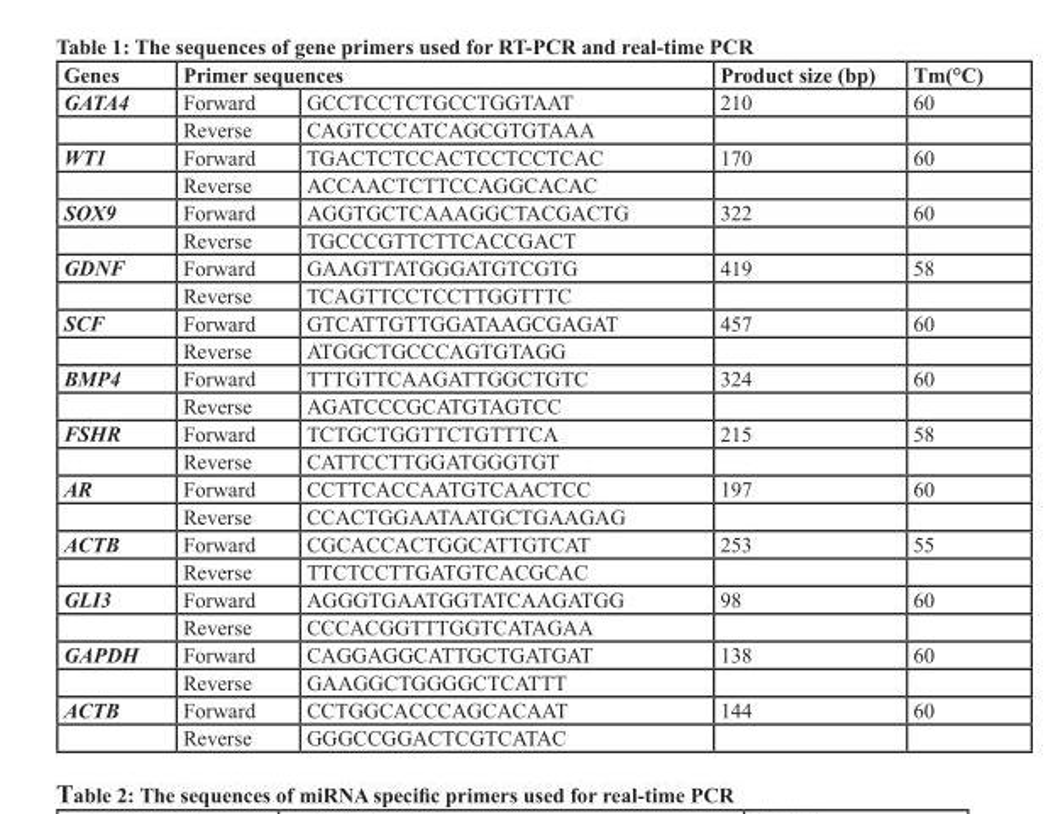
<table><thead><tr><td rowspan="2">Genes GATA4</td><td colspan="2">Primer sequences</td><td rowspan="2">Product size (bp) 210</td><td rowspan="2">Tm(°C) 60</td></tr><tr><td>Forward</td><td>GCCTCCTCTGCCTGGTAAT</td></tr></thead><tbody><tr><td></td><td>Reverse</td><td>CAGTCCCATCAGCGTGTAAA</td><td></td><td></td></tr><tr><td rowspan="2">WT1</td><td>Forward</td><td>TGACTCTCCACTCCTCCTCAC</td><td>170</td><td>60</td></tr><tr><td>Reverse</td><td>ACCAACTCTTCCAGGCACAC</td><td></td><td></td></tr><tr><td rowspan="2">SOX9</td><td>Forward</td><td>AGGTGCTCAAAGGCTACGACTG</td><td>322</td><td>60</td></tr><tr><td>Reverse</td><td>TGCCCGTTCTTCACCGACT</td><td></td><td></td></tr><tr><td rowspan="2">GDNF</td><td>Forward</td><td>GAAGTTATGGGATGTCGTG</td><td>419</td><td>58</td></tr><tr><td>Reverse</td><td>TCAGTTCCTCCTTGGTTTC</td><td></td><td></td></tr><tr><td rowspan="2">SCF</td><td>Forward</td><td>GTCATTGTTGGATAAGCGAGAT</td><td>457</td><td>60</td></tr><tr><td>Reverse</td><td>ATGGCTGCCCAGTGTAGG</td><td></td><td></td></tr><tr><td rowspan="2">BMP4</td><td>Forward</td><td>TTTGTTCAAGATTGGCTGTC</td><td>324</td><td>60</td></tr><tr><td>Reverse</td><td>AGATCCCGCATGTAGTCC</td><td></td><td></td></tr><tr><td rowspan="2">FSHR</td><td>Forward</td><td>TCTGCTGGTTCTGTTTCA</td><td>215</td><td>58</td></tr><tr><td>Reverse</td><td>CATTCCTTGGATGGGTGT</td><td></td><td></td></tr><tr><td rowspan="2">AR</td><td>Forward</td><td>CCTTCACCAATGTCAACTCC</td><td>197</td><td>60</td></tr><tr><td>Reverse</td><td>CCACTGGAATAATGCTGAAGAG</td><td></td><td></td></tr><tr><td rowspan="2">ACTB</td><td>Forward</td><td>CGCACCACTGGCATTGTCAT</td><td>253</td><td>55</td></tr><tr><td>Reverse</td><td>TTCTCCTTGATGTCACGCAC</td><td></td><td></td></tr><tr><td rowspan="2">GLI3</td><td>Forward</td><td>AGGGTGAATGGTATCAAGATGG</td><td>98</td><td>60</td></tr><tr><td>Reverse</td><td>CCCACGGTTTGGTCATAGAA</td><td></td><td></td></tr><tr><td rowspan="2">GAPDH</td><td>Forward</td><td>CAGGAGGCATTGCTGATGAT</td><td>138</td><td>60</td></tr><tr><td>Reverse</td><td>GAAGGCTGGGGCTCATTT</td><td></td><td></td></tr><tr><td rowspan="2">ACTB</td><td>Forward</td><td>CCTGGCACCCAGCACAAT</td><td>144</td><td>60</td></tr><tr><td>Reverse</td><td>GGGCCGGACTCGTCATAC</td><td></td><td></td></tr></tbody></table>